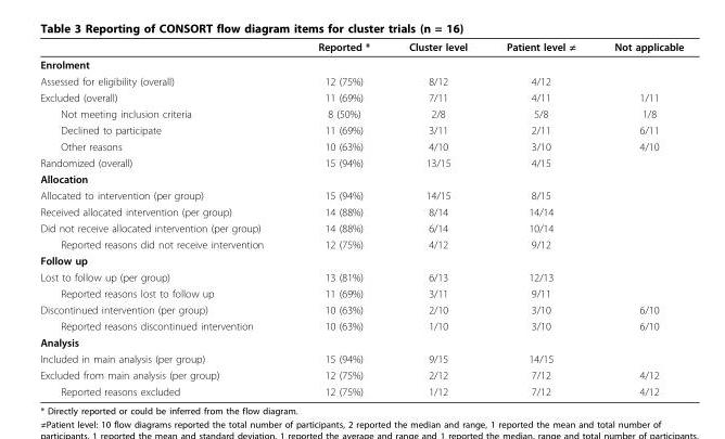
<table><thead><tr><td></td><td>Reported *</td><td>Cluster level</td><td>Patient level ≠</td><td>Not applicable</td></tr></thead><tbody><tr><td colspan="5">Enrolment</td></tr><tr><td>Assessed for eligibility (overall)</td><td>12 (75%)</td><td>8/12</td><td>4/12</td><td></td></tr><tr><td>Excluded (overall)</td><td>11 (69%)</td><td>7/11</td><td>4/11</td><td>1/11</td></tr><tr><td>Not meeting inclusion criteria</td><td>8 (50%)</td><td>2/8</td><td>5/8</td><td>1/8</td></tr><tr><td>Declined to participate</td><td>11 (69%)</td><td>3/11</td><td>2/11</td><td>6/11</td></tr><tr><td>Other reasons</td><td>10 (63%)</td><td>4/10</td><td>3/10</td><td>4/10</td></tr><tr><td>Randomized (overall)</td><td>15 (94%)</td><td>13/15</td><td>4/15</td><td></td></tr><tr><td colspan="5">Allocation</td></tr><tr><td>Allocated to intervention (per group)</td><td>15 (94%)</td><td>14/15</td><td>8/15</td><td></td></tr><tr><td>Received allocated intervention (per group)</td><td>14 (88%)</td><td>8/14</td><td>14/14</td><td></td></tr><tr><td>Did not receive allocated intervention (per group)</td><td>14 (88%)</td><td>6/14</td><td>10/14</td><td></td></tr><tr><td>Reported reasons did not receive intervention</td><td>12 (75%)</td><td>4/12</td><td>9/12</td><td></td></tr><tr><td colspan="5">Follow up</td></tr><tr><td>Lost to follow up (per group)</td><td>13 (81%)</td><td>6/13</td><td>12/13</td><td></td></tr><tr><td>Reported reasons lost to follow up</td><td>11 (69%)</td><td>3/11</td><td>9/11</td><td></td></tr><tr><td>Discontinued intervention (per group)</td><td>10 (63%)</td><td>2/10</td><td>3/10</td><td>6/10</td></tr><tr><td>Reported reasons discontinued intervention</td><td>10 (63%)</td><td>1/10</td><td>3/10</td><td>6/10</td></tr><tr><td colspan="5">Analysis</td></tr><tr><td>Included in main analysis (per group)</td><td>15 (94%)</td><td>9/15</td><td>14/15</td><td></td></tr><tr><td>Excluded from main analysis (per group)</td><td>12 (75%)</td><td>2/12</td><td>7/12</td><td>4/12</td></tr><tr><td>Reported reasons excluded</td><td>12 (75%)</td><td>1/12</td><td>7/12</td><td>4/12</td></tr></tbody></table>